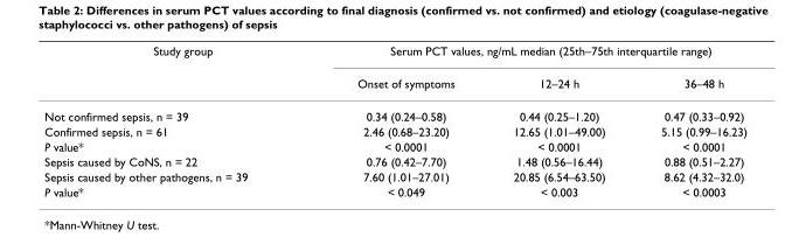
<table><thead><tr><td rowspan="2">Study group</td><td colspan="3">Serum PCT values, ng/mL median (25th–75th interquartile range)</td></tr><tr><td>Onset of symptoms</td><td>12–24 h</td><td>36–48 h</td></tr></thead><tbody><tr><td>Not confirmed sepsis, n = 39</td><td>0.34 (0.24–0.58)</td><td>0.44 (0.25–1.20)</td><td>0.47 (0.33–0.92)</td></tr><tr><td>Confirmed sepsis, n = 61</td><td>2.46 (0.68–23.20)</td><td>12.65 (1.01–49.00)</td><td>5.15 (0.99–16.23)</td></tr><tr><td>P value*</td><td>&lt; 0.0001</td><td>&lt; 0.0001</td><td>&lt; 0.0001</td></tr><tr><td>Sepsis caused by CoNS, n = 22</td><td>0.76 (0.42–7.70)</td><td>1.48 (0.56–16.44)</td><td>0.88 (0.51–2.27)</td></tr><tr><td>Sepsis caused by other pathogens, n = 39</td><td>7.60 (1.01–27.01)</td><td>20.85 (6.54–63.50)</td><td>8.62 (4.32–32.0)</td></tr><tr><td>P value*</td><td>&lt; 0.049</td><td>&lt; 0.003</td><td>&lt; 0.0003</td></tr></tbody></table>